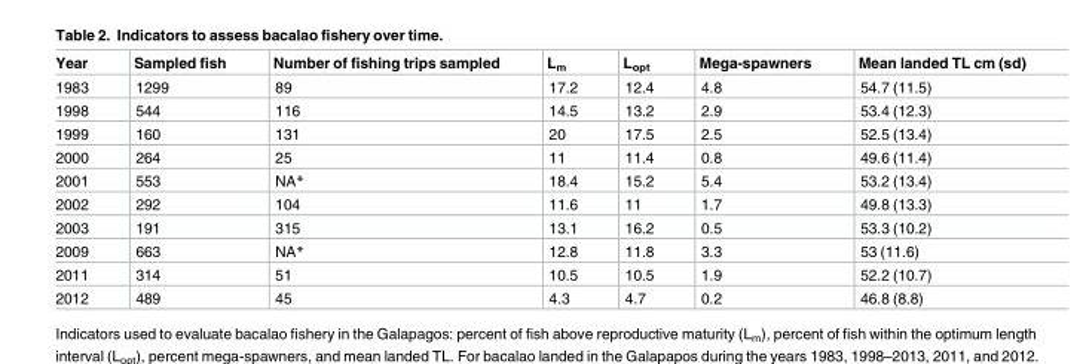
<table><thead><tr><td>Year</td><td>Sampled fish</td><td>Number of fishing trips sampled</td><td>L<sub>m</sub></td><td>L<sub>opt</sub></td><td>Mega-spawners</td><td>Mean landed TL cm (sd)</td></tr></thead><tbody><tr><td>1983</td><td>1299</td><td>89</td><td>17.2</td><td>12.4</td><td>4.8</td><td>54.7 (11.5)</td></tr><tr><td>1998</td><td>544</td><td>116</td><td>14.5</td><td>13.2</td><td>2.9</td><td>53.4 (12.3)</td></tr><tr><td>1999</td><td>160</td><td>131</td><td>20</td><td>17.5</td><td>2.5</td><td>52.5 (13.4)</td></tr><tr><td>2000</td><td>264</td><td>25</td><td>11</td><td>11.4</td><td>0.8</td><td>49.6 (11.4)</td></tr><tr><td>2001</td><td>553</td><td>NA*</td><td>18.4</td><td>15.2</td><td>5.4</td><td>53.2 (13.4)</td></tr><tr><td>2002</td><td>292</td><td>104</td><td>11.6</td><td>11</td><td>1.7</td><td>49.8 (13.3)</td></tr><tr><td>2003</td><td>191</td><td>315</td><td>13.1</td><td>16.2</td><td>0.5</td><td>53.3 (10.2)</td></tr><tr><td>2009</td><td>663</td><td>NA*</td><td>12.8</td><td>11.8</td><td>3.3</td><td>53 (11.6)</td></tr><tr><td>2011</td><td>314</td><td>51</td><td>10.5</td><td>10.5</td><td>1.9</td><td>52.2 (10.7)</td></tr><tr><td>2012</td><td>489</td><td>45</td><td>4.3</td><td>4.7</td><td>0.2</td><td>46.8 (8.8)</td></tr></tbody></table>